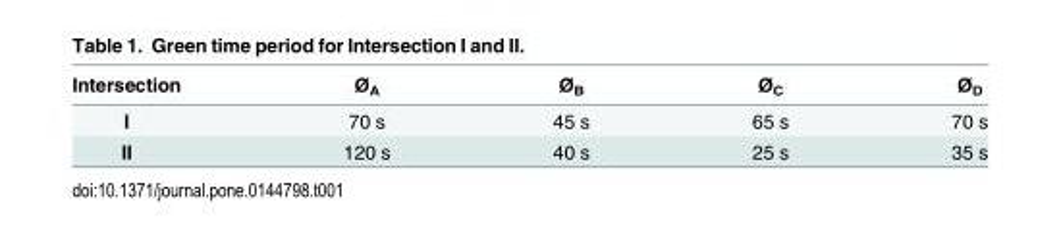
<table><thead><tr><td>Intersection</td><td>Ø<sub>A</sub></td><td>Ø<sub>B</sub></td><td>Ø<sub>C</sub></td><td>Ø<sub>D</sub></td></tr></thead><tbody><tr><td>I</td><td>70 s</td><td>45 s</td><td>65 s</td><td>70 s</td></tr><tr><td>II</td><td>120 s</td><td>40 s</td><td>25 s</td><td>35 s</td></tr></tbody></table>